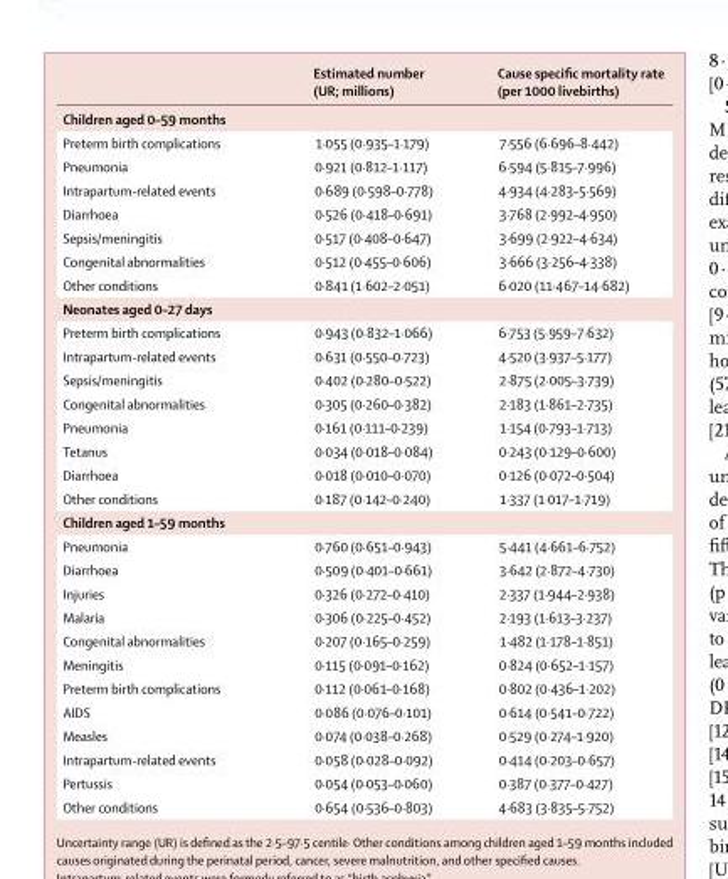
<table><thead><tr><td></td><td>Estimated number (UR; millions)</td><td>Cause specifi c mortality rate (per 1000 livebirths)</td></tr></thead><tbody><tr><td colspan="3">Children aged 0–59 months</td></tr><tr><td>Preterm birth complications</td><td>1·055 (0·935–1·179)</td><td>7·556 (6·696–8·442)</td></tr><tr><td>Pneumonia</td><td>0·921 (0·812–1·117)</td><td>6·594 (5·815–7·996)</td></tr><tr><td>Intrapartum-related events</td><td>0·689 (0·598–0·778)</td><td>4·934 (4·283–5·569)</td></tr><tr><td>Diarrhoea</td><td>0·526 (0·418–0·691)</td><td>3·768 (2·992–4·950)</td></tr><tr><td>Sepsis/meningitis</td><td>0·517 (0·408–0·647)</td><td>3·699 (2·922–4·634)</td></tr><tr><td>Congenital abnormalities</td><td>0·512 (0·455–0·606)</td><td>3·666 (3·256–4·338)</td></tr><tr><td>Other conditions</td><td>0·841 (1·602–2·051)</td><td>6·020 (11·467–14·682)</td></tr><tr><td colspan="3">Neonates aged 0–27 days</td></tr><tr><td>Preterm birth complications</td><td>0·943 (0·832–1·066)</td><td>6·753 (5·959–7·632)</td></tr><tr><td>Intrapartum-related events</td><td>0·631 (0·550–0·723)</td><td>4·520 (3·937–5·177)</td></tr><tr><td>Sepsis/meningitis</td><td>0·402 (0·280–0·522)</td><td>2·875 (2·005–3·739)</td></tr><tr><td>Congenital abnormalities</td><td>0·305 (0·260–0·382)</td><td>2·183 (1·861–2·735)</td></tr><tr><td>Pneumonia</td><td>0·161 (0·111–0·239)</td><td>1·154 (0·793–1·713)</td></tr><tr><td>Tetanus</td><td>0·034 (0·018–0·084)</td><td>0·243 (0·129–0·600)</td></tr><tr><td>Diarrhoea</td><td>0·018 (0·010–0·070)</td><td>0·126 (0·072–0·504)</td></tr><tr><td>Other conditions</td><td>0·187 (0·142–0·240)</td><td>1·337 (1·017–1·719)</td></tr><tr><td colspan="3">Children aged 1–59 months</td></tr><tr><td>Pneumonia</td><td>0·760 (0·651–0·943)</td><td>5·441 (4·661–6·752)</td></tr><tr><td>Diarrhoea</td><td>0·509 (0·401–0·661)</td><td>3·642 (2·872–4·730)</td></tr><tr><td>Injuries</td><td>0·326 (0·272–0·410)</td><td>2·337 (1·944–2·938)</td></tr><tr><td>Malaria</td><td>0·306 (0·225–0·452)</td><td>2·193 (1·613–3·237)</td></tr><tr><td>Congenital abnormalities</td><td>0·207 (0·165–0·259)</td><td>1·482 (1·178–1·851)</td></tr><tr><td>Meningitis</td><td>0·115 (0·091–0·162)</td><td>0·824 (0·652–1·157)</td></tr><tr><td>Preterm birth complications</td><td>0·112 (0·061–0·168)</td><td>0·802 (0·436–1·202)</td></tr><tr><td>AIDS</td><td>0·086 (0·076–0·101)</td><td>0·614 (0·541–0·722)</td></tr><tr><td>Measles</td><td>0·074 (0·038–0·268)</td><td>0·529 (0·274–1·920)</td></tr><tr><td>Intrapartum-related events</td><td>0·058 (0·028–0·092)</td><td>0·414 (0·203–0·657)</td></tr><tr><td>Pertussis</td><td>0·054 (0·053–0·060)</td><td>0·387 (0·377–0·427)</td></tr><tr><td>Other conditions</td><td>0·654 (0·536–0·803)</td><td>4·683 (3·835–5·752)</td></tr></tbody></table>